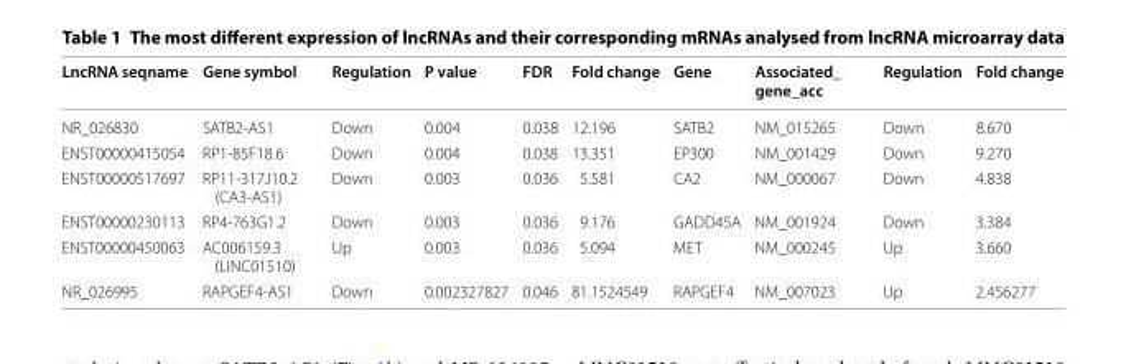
<table><thead><tr><td>LncRNA seqname</td><td>Gene symbol</td><td>Regulation</td><td>P value</td><td>FDR</td><td>Fold change</td><td>Gene</td><td>Associated_ gene_acc</td><td>Regulation</td><td>Fold change</td></tr></thead><tbody><tr><td>NR_026830</td><td>SATB2-AS1</td><td>Down</td><td>0.004</td><td>0.038</td><td>12.196</td><td>SATB2</td><td>NM_015265</td><td>Down</td><td>8.670</td></tr><tr><td>ENST00000415054</td><td>RP1-85F18.6</td><td>Down</td><td>0.004</td><td>0.038</td><td>13.351</td><td>EP300</td><td>NM_001429</td><td>Down</td><td>9.270</td></tr><tr><td>ENST00000517697</td><td>RP11-317J10.2 (CA3-AS1)</td><td>Down</td><td>0.003</td><td>0.036</td><td>5.581</td><td>CA2</td><td>NM_000067</td><td>Down</td><td>4.838</td></tr><tr><td>ENST00000230113</td><td>RP4-763G1.2</td><td>Down</td><td>0.003</td><td>0.036</td><td>9.176</td><td>GADD45A</td><td>NM_001924</td><td>Down</td><td>3.384</td></tr><tr><td>ENST00000450063</td><td>AC006159.3 (LINC01510)</td><td>Up</td><td>0.003</td><td>0.036</td><td>5.094</td><td>MET</td><td>NM_000245</td><td>Up</td><td>3.660</td></tr><tr><td>NR_026995</td><td>RAPGEF4-AS1</td><td>Down</td><td>0.002327827</td><td>0.046</td><td>81.1524549</td><td>RAPGEF4</td><td>NM_007023</td><td>Up</td><td>2.456277</td></tr></tbody></table>